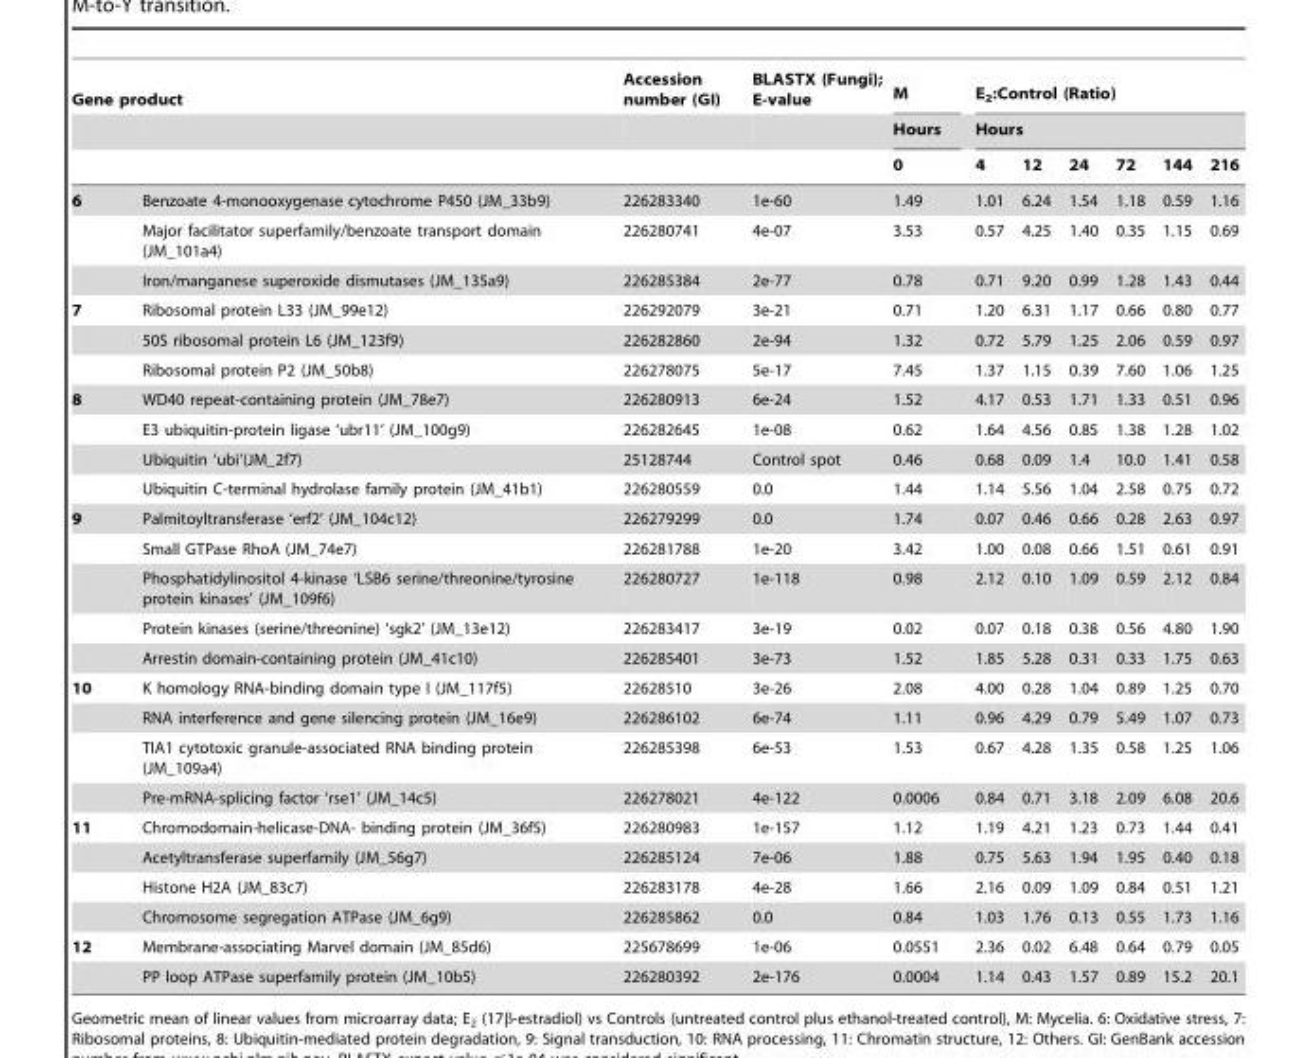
<table><thead><tr><td colspan="2">Gene product</td><td rowspan="3">Accession number (GI)</td><td rowspan="3">BLASTX (Fungi); E-value</td><td rowspan="3">M Hours 0</td><td rowspan="2" colspan="6">E<sub>2</sub>:Control (Ratio) Hours</td></tr><tr><td rowspan="2"></td><td rowspan="2"></td></tr><tr><td>4</td><td>12</td><td>24</td><td>72</td><td>144</td><td>216</td></tr></thead><tbody><tr><td rowspan="3">6</td><td>Benzoate 4-monooxygenase cytochrome P450 (JM_33b9)</td><td>226283340</td><td>1e-60</td><td>1.49</td><td>1.01</td><td>6.24</td><td>1.54</td><td>1.18</td><td>0.59</td><td>1.16</td></tr><tr><td>Major facilitator superfamily/benzoate transport domain (JM_101a4)</td><td>226280741</td><td>4e-07</td><td>3.53</td><td>0.57</td><td>4.25</td><td>1.40</td><td>0.35</td><td>1.15</td><td>0.69</td></tr><tr><td>Iron/manganese superoxide dismutases (JM_135a9)</td><td>226285384</td><td>2e-77</td><td>0.78</td><td>0.71</td><td>9.20</td><td>0.99</td><td>1.28</td><td>1.43</td><td>0.44</td></tr><tr><td rowspan="3">7</td><td>Ribosomal protein L33 (JM_99e12)</td><td>226292079</td><td>3e-21</td><td>0.71</td><td>1.20</td><td>6.31</td><td>1.17</td><td>0.66</td><td>0.80</td><td>0.77</td></tr><tr><td>50S ribosomal protein L6 (JM_123f9)</td><td>226282860</td><td>2e-94</td><td>1.32</td><td>0.72</td><td>5.79</td><td>1.25</td><td>2.06</td><td>0.59</td><td>0.97</td></tr><tr><td>Ribosomal protein P2 (JM_50b8)</td><td>226278075</td><td>5e-17</td><td>7.45</td><td>1.37</td><td>1.15</td><td>0.39</td><td>7.60</td><td>1.06</td><td>1.25</td></tr><tr><td rowspan="4">8</td><td>WD40 repeat-containing protein (JM_78e7)</td><td>226280913</td><td>6e-24</td><td>1.52</td><td>4.17</td><td>0.53</td><td>1.71</td><td>1.33</td><td>0.51</td><td>0.96</td></tr><tr><td>E3 ubiquitin-protein ligase ‘ubr11’ (JM_100g9)</td><td>226282645</td><td>1e-08</td><td>0.62</td><td>1.64</td><td>4.56</td><td>0.85</td><td>1.38</td><td>1.28</td><td>1.02</td></tr><tr><td>Ubiquitin ‘ubi’(JM_2f7)</td><td>25128744</td><td>Control spot</td><td>0.46</td><td>0.68</td><td>0.09</td><td>1.4</td><td>10.0</td><td>1.41</td><td>0.58</td></tr><tr><td>Ubiquitin C-terminal hydrolase family protein (JM_41b1)</td><td>226280559</td><td>0.0</td><td>1.44</td><td>1.14</td><td>5.56</td><td>1.04</td><td>2.58</td><td>0.75</td><td>0.72</td></tr><tr><td rowspan="5">9</td><td>Palmitoyltransferase ‘erf2’ (JM_104c12)</td><td>226279299</td><td>0.0</td><td>1.74</td><td>0.07</td><td>0.46</td><td>0.66</td><td>0.28</td><td>2.63</td><td>0.97</td></tr><tr><td>Small GTPase RhoA (JM_74e7)</td><td>226281788</td><td>1e-20</td><td>3.42</td><td>1.00</td><td>0.08</td><td>0.66</td><td>1.51</td><td>0.61</td><td>0.91</td></tr><tr><td>Phosphatidylinositol 4-kinase ‘LSB6 serine/threonine/tyrosine protein kinases’ (JM_109f6)</td><td>226280727</td><td>1e-118</td><td>0.98</td><td>2.12</td><td>0.10</td><td>1.09</td><td>0.59</td><td>2.12</td><td>0.84</td></tr><tr><td>Protein kinases (serine/threonine) ‘sgk2’ (JM_13e12)</td><td>226283417</td><td>3e-19</td><td>0.02</td><td>0.07</td><td>0.18</td><td>0.38</td><td>0.56</td><td>4.80</td><td>1.90</td></tr><tr><td>Arrestin domain-containing protein (JM_41c10)</td><td>226285401</td><td>3e-73</td><td>1.52</td><td>1.85</td><td>5.28</td><td>0.31</td><td>0.33</td><td>1.75</td><td>0.63</td></tr><tr><td rowspan="4">10</td><td>K homology RNA-binding domain type I (JM_117f5)</td><td>22628510</td><td>3e-26</td><td>2.08</td><td>4.00</td><td>0.28</td><td>1.04</td><td>0.89</td><td>1.25</td><td>0.70</td></tr><tr><td>RNA interference and gene silencing protein (JM_16e9)</td><td>226286102</td><td>6e-74</td><td>1.11</td><td>0.96</td><td>4.29</td><td>0.79</td><td>5.49</td><td>1.07</td><td>0.73</td></tr><tr><td>TIA1 cytotoxic granule-associated RNA binding protein (JM_109a4)</td><td>226285398</td><td>6e-53</td><td>1.53</td><td>0.67</td><td>4.28</td><td>1.35</td><td>0.58</td><td>1.25</td><td>1.06</td></tr><tr><td>Pre-mRNA-splicing factor ‘rse1’ (JM_14c5)</td><td>226278021</td><td>4e-122</td><td>0.0006</td><td>0.84</td><td>0.71</td><td>3.18</td><td>2.09</td><td>6.08</td><td>20.6</td></tr><tr><td rowspan="4">11</td><td>Chromodomain-helicase-DNA- binding protein (JM_36f5)</td><td>226280983</td><td>1e-157</td><td>1.12</td><td>1.19</td><td>4.21</td><td>1.23</td><td>0.73</td><td>1.44</td><td>0.41</td></tr><tr><td>Acetyltransferase superfamily (JM_56g7)</td><td>226285124</td><td>7e-06</td><td>1.88</td><td>0.75</td><td>5.63</td><td>1.94</td><td>1.95</td><td>0.40</td><td>0.18</td></tr><tr><td>Histone H2A (JM_83c7)</td><td>226283178</td><td>4e-28</td><td>1.66</td><td>2.16</td><td>0.09</td><td>1.09</td><td>0.84</td><td>0.51</td><td>1.21</td></tr><tr><td>Chromosome segregation ATPase (JM_6g9)</td><td>226285862</td><td>0.0</td><td>0.84</td><td>1.03</td><td>1.76</td><td>0.13</td><td>0.55</td><td>1.73</td><td>1.16</td></tr><tr><td rowspan="2">12</td><td>Membrane-associating Marvel domain (JM_85d6)</td><td>225678699</td><td>1e-06</td><td>0.0551</td><td>2.36</td><td>0.02</td><td>6.48</td><td>0.64</td><td>0.79</td><td>0.05</td></tr><tr><td>PP loop ATPase superfamily protein (JM_10b5)</td><td>226280392</td><td>2e-176</td><td>0.0004</td><td>1.14</td><td>0.43</td><td>1.57</td><td>0.89</td><td>15.2</td><td>20.1</td></tr></tbody></table>